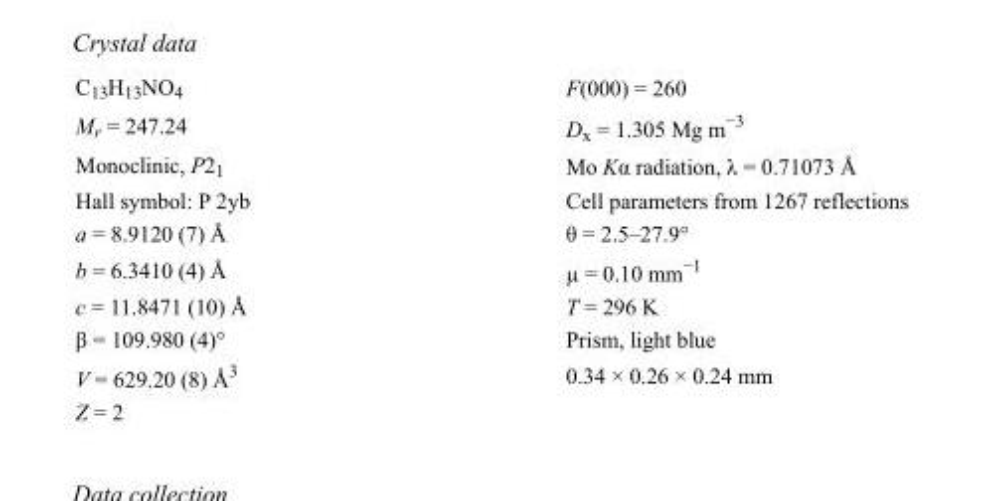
<table><tbody><tr><td>C<sub>13</sub>H<sub>13</sub>NO<sub>4</sub></td><td>F(000) = 260</td></tr><tr><td>M<sub>r</sub> = 247.24</td><td>D<sub>x</sub> = 1.305 Mg m<sup>−3</sup></td></tr><tr><td>Monoclinic, P2<sub>1</sub></td><td>Mo Kα radiation, λ = 0.71073 Å</td></tr><tr><td>Hall symbol: P 2yb</td><td>Cell parameters from 1267 reflections</td></tr><tr><td>a = 8.9120 (7) Å</td><td>θ = 2.5–27.9°</td></tr><tr><td>b = 6.3410 (4) Å</td><td>µ = 0.10 mm<sup>−1</sup></td></tr><tr><td>c = 11.8471 (10) Å</td><td>T = 296 K</td></tr><tr><td>β = 109.980 (4)°</td><td>Prism, light blue</td></tr><tr><td>V = 629.20 (8) Å<sup>3</sup></td><td>0.34 × 0.26 × 0.24 mm</td></tr><tr><td>Z = 2</td><td></td></tr></tbody></table>